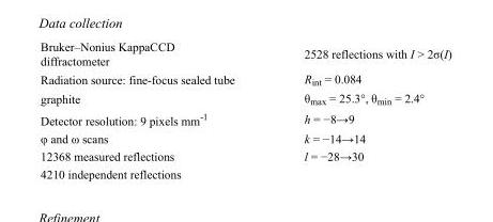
<table><tbody><tr><td>Bruker–Nonius KappaCCD diffractometer</td><td>2528 reflections with I &gt; 2σ(I)</td></tr><tr><td>Radiation source: fine-focus sealed tube</td><td>R<sub>int</sub> = 0.084</td></tr><tr><td>graphite</td><td>θ<sub>max</sub> = 25.3°, θ<sub>min</sub> = 2.4°</td></tr><tr><td>Detector resolution: 9 pixels mm<sup>-1</sup></td><td>h = −8→9</td></tr><tr><td>φ and ω scans</td><td>k = −14→14</td></tr><tr><td>12368 measured reflections</td><td>l = −28→30</td></tr><tr><td>4210 independent reflections</td><td></td></tr></tbody></table>